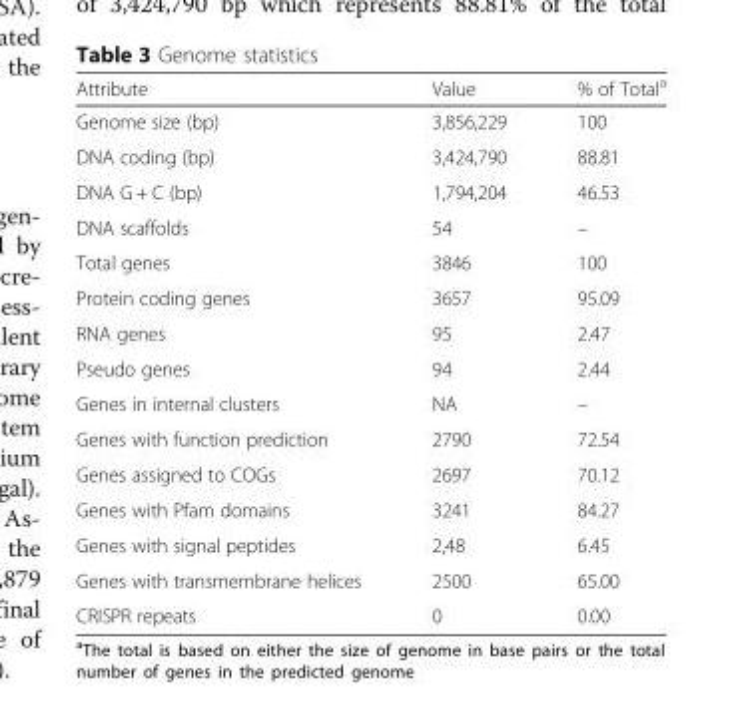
<table><thead><tr><td>Attribute</td><td>Value</td><td>% of Total<sup>a</sup></td></tr></thead><tbody><tr><td>Genome size (bp)</td><td>3,856,229</td><td>100</td></tr><tr><td>DNA coding (bp)</td><td>3,424,790</td><td>88.81</td></tr><tr><td>DNA G + C (bp)</td><td>1,794,204</td><td>46.53</td></tr><tr><td>DNA scaffolds</td><td>54</td><td>–</td></tr><tr><td>Total genes</td><td>3846</td><td>100</td></tr><tr><td>Protein coding genes</td><td>3657</td><td>95.09</td></tr><tr><td>RNA genes</td><td>95</td><td>2.47</td></tr><tr><td>Pseudo genes</td><td>94</td><td>2.44</td></tr><tr><td>Genes in internal clusters</td><td>NA</td><td>–</td></tr><tr><td>Genes with function prediction</td><td>2790</td><td>72.54</td></tr><tr><td>Genes assigned to COGs</td><td>2697</td><td>70.12</td></tr><tr><td>Genes with Pfam domains</td><td>3241</td><td>84.27</td></tr><tr><td>Genes with signal peptides</td><td>2,48</td><td>6.45</td></tr><tr><td>Genes with transmembrane helices</td><td>2500</td><td>65.00</td></tr><tr><td>CRISPR repeats</td><td>0</td><td>0.00</td></tr></tbody></table>